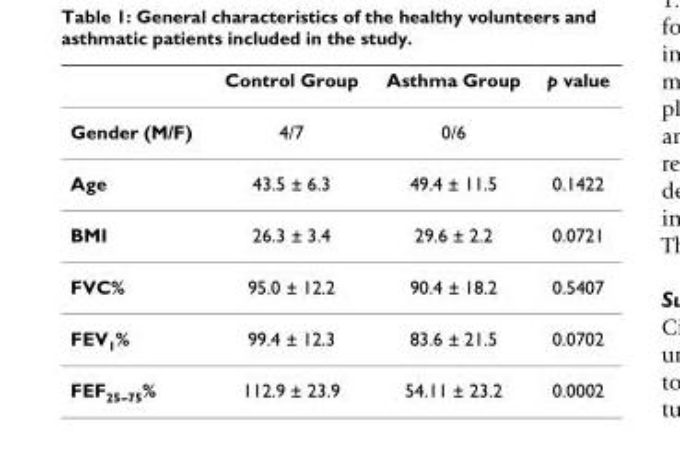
<table><thead><tr><td></td><td>Control Group</td><td>Asthma Group</td><td>p value</td></tr></thead><tbody><tr><td>Gender (M/F)</td><td>4/7</td><td>0/6</td><td></td></tr><tr><td>Age</td><td>43.5 ± 6.3</td><td>49.4 ± 11.5</td><td>0.1422</td></tr><tr><td>BMI</td><td>26.3 ± 3.4</td><td>29.6 ± 2.2</td><td>0.0721</td></tr><tr><td>FVC%</td><td>95.0 ± 12.2</td><td>90.4 ± 18.2</td><td>0.5407</td></tr><tr><td>FEV<sub>1</sub>%</td><td>99.4 ± 12.3</td><td>83.6 ± 21.5</td><td>0.0702</td></tr><tr><td>FEF<sub>25–75</sub>%</td><td>112.9 ± 23.9</td><td>54.11 ± 23.2</td><td>0.0002</td></tr></tbody></table>